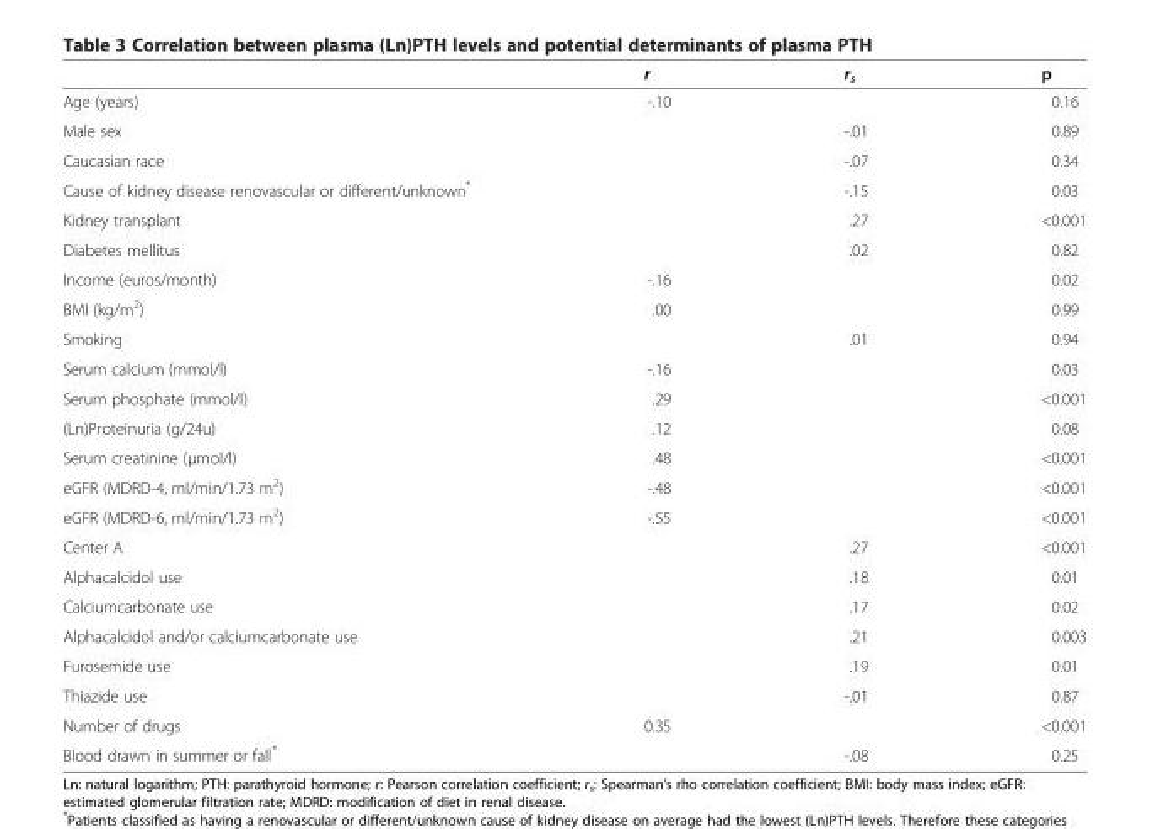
<table><thead><tr><td></td><td>r</td><td>r<sub>s</sub></td><td>p</td></tr></thead><tbody><tr><td>Age (years)</td><td>-.10</td><td></td><td>0.16</td></tr><tr><td>Male sex</td><td></td><td>-.01</td><td>0.89</td></tr><tr><td>Caucasian race</td><td></td><td>-.07</td><td>0.34</td></tr><tr><td>Cause of kidney disease renovascular or different/unknown*</td><td></td><td>-.15</td><td>0.03</td></tr><tr><td>Kidney transplant</td><td></td><td>.27</td><td>&lt;0.001</td></tr><tr><td>Diabetes mellitus</td><td></td><td>.02</td><td>0.82</td></tr><tr><td>Income (euros/month)</td><td>-.16</td><td></td><td>0.02</td></tr><tr><td>BMI (kg/m<sup>2</sup>)</td><td>.00</td><td></td><td>0.99</td></tr><tr><td>Smoking</td><td></td><td>.01</td><td>0.94</td></tr><tr><td>Serum calcium (mmol/l)</td><td>-.16</td><td></td><td>0.03</td></tr><tr><td>Serum phosphate (mmol/l)</td><td>.29</td><td></td><td>&lt;0.001</td></tr><tr><td>(Ln)Proteinuria (g/24u)</td><td>.12</td><td></td><td>0.08</td></tr><tr><td>Serum creatinine (μmol/l)</td><td>.48</td><td></td><td>&lt;0.001</td></tr><tr><td>eGFR (MDRD-4, ml/min/1.73 m<sup>2</sup>)</td><td>-.48</td><td></td><td>&lt;0.001</td></tr><tr><td>eGFR (MDRD-6, ml/min/1.73 m<sup>2</sup>)</td><td>-.55</td><td></td><td>&lt;0.001</td></tr><tr><td>Center A</td><td></td><td>.27</td><td>&lt;0.001</td></tr><tr><td>Alphacalcidol use</td><td></td><td>.18</td><td>0.01</td></tr><tr><td>Calciumcarbonate use</td><td></td><td>.17</td><td>0.02</td></tr><tr><td>Alphacalcidol and/or calciumcarbonate use</td><td></td><td>.21</td><td>0.003</td></tr><tr><td>Furosemide use</td><td></td><td>.19</td><td>0.01</td></tr><tr><td>Thiazide use</td><td></td><td>-.01</td><td>0.87</td></tr><tr><td>Number of drugs</td><td>0.35</td><td></td><td>&lt;0.001</td></tr><tr><td>Blood drawn in summer or fall*</td><td></td><td>-.08</td><td>0.25</td></tr></tbody></table>